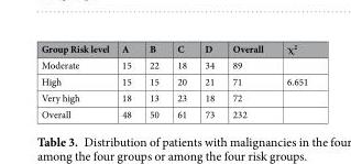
<table><thead><tr><td>Group Risk level</td><td>A</td><td>B</td><td>C</td><td>D</td><td>Overall</td><td>χ<sup>2</sup></td></tr></thead><tbody><tr><td>Moderate</td><td>15</td><td>22</td><td>18</td><td>34</td><td>89</td><td></td></tr><tr><td>High</td><td>15</td><td>15</td><td>20</td><td>21</td><td>71</td><td>6.651</td></tr><tr><td>Very high</td><td>18</td><td>13</td><td>23</td><td>18</td><td>72</td><td></td></tr><tr><td>Overall</td><td>48</td><td>50</td><td>61</td><td>73</td><td>232</td><td></td></tr></tbody></table>